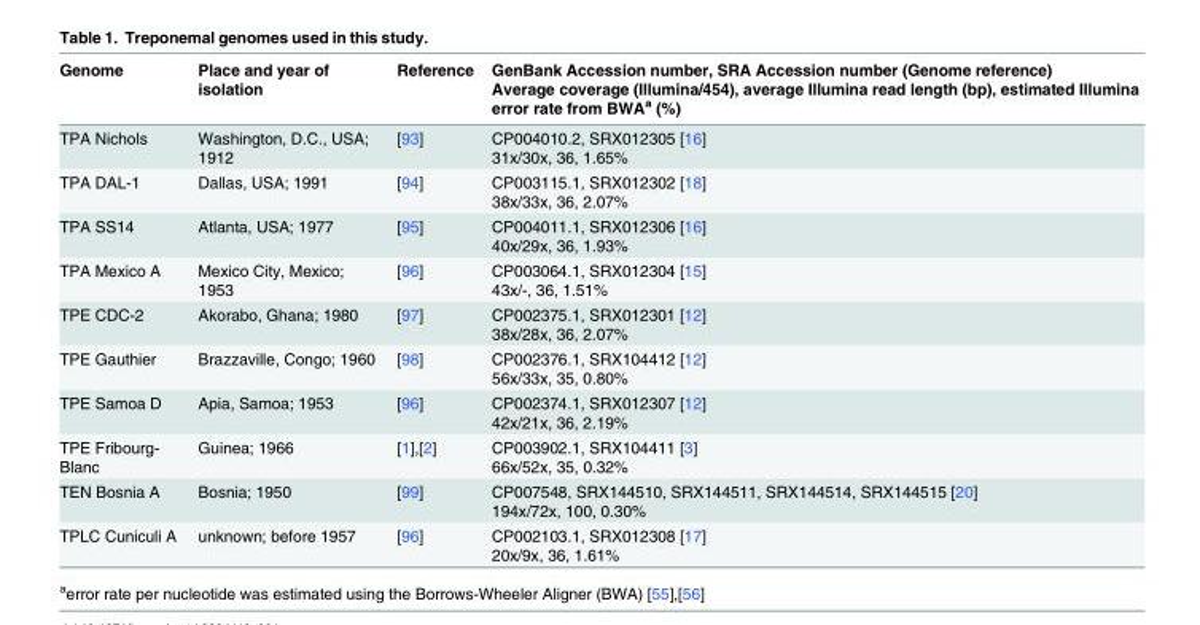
<table><thead><tr><td rowspan="2">Genome</td><td rowspan="2">Place and year of isolation</td><td rowspan="2">Reference</td><td rowspan="2">GenBank Accession number, SRA Accession number (Genome reference) Average coverage (Illumina/454), average Illumina read length (bp), estimated Illumina error rate from BWA<sup>a</sup> (%)</td></tr><tr></tr></thead><tbody><tr><td>TPA Nichols</td><td>Washington, D.C., USA; 1912</td><td>[93]</td><td>CP004010.2, SRX012305 [16] 31x/30x, 36, 1.65%</td></tr><tr><td>TPA DAL-1</td><td>Dallas, USA; 1991</td><td>[94]</td><td>CP003115.1, SRX012302 [18] 38x/33x, 36, 2.07%</td></tr><tr><td>TPA SS14</td><td>Atlanta, USA; 1977</td><td>[95]</td><td>CP004011.1, SRX012306 [16] 40x/29x, 36, 1.93%</td></tr><tr><td>TPA Mexico A</td><td>Mexico City, Mexico; 1953</td><td>[96]</td><td>CP003064.1, SRX012304 [15] 43x/-, 36, 1.51%</td></tr><tr><td>TPE CDC-2</td><td>Akorabo, Ghana; 1980</td><td>[97]</td><td>CP002375.1, SRX012301 [12] 38x/28x, 36, 2.07%</td></tr><tr><td>TPE Gauthier</td><td>Brazzaville, Congo; 1960</td><td>[98]</td><td>CP002376.1, SRX104412 [12] 56x/33x, 35, 0.80%</td></tr><tr><td>TPE Samoa D</td><td>Apia, Samoa; 1953</td><td>[96]</td><td>CP002374.1, SRX012307 [12] 42x/21x, 36, 2.19%</td></tr><tr><td>TPE Fribourg- Blanc</td><td>Guinea; 1966</td><td>[1],[2]</td><td>CP003902.1, SRX104411 [3] 66x/52x, 35, 0.32%</td></tr><tr><td>TEN Bosnia A</td><td>Bosnia; 1950</td><td>[99]</td><td>CP007548, SRX144510, SRX144511, SRX144514, SRX144515 [20] 194x/72x, 100, 0.30%</td></tr><tr><td>TPLC Cuniculi A</td><td>unknown; before 1957</td><td>[96]</td><td>CP002103.1, SRX012308 [17] 20x/9x, 36, 1.61%</td></tr></tbody></table>